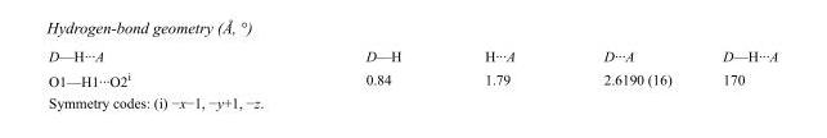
<table><tbody><tr><td>D—H···A</td><td>D—H</td><td>H···A</td><td>D···A</td><td>D—H···A</td></tr><tr><td>O1—H1···O2<sup>i</sup></td><td>0.84</td><td>1.79</td><td>2.6190 (16)</td><td>170</td></tr></tbody></table>